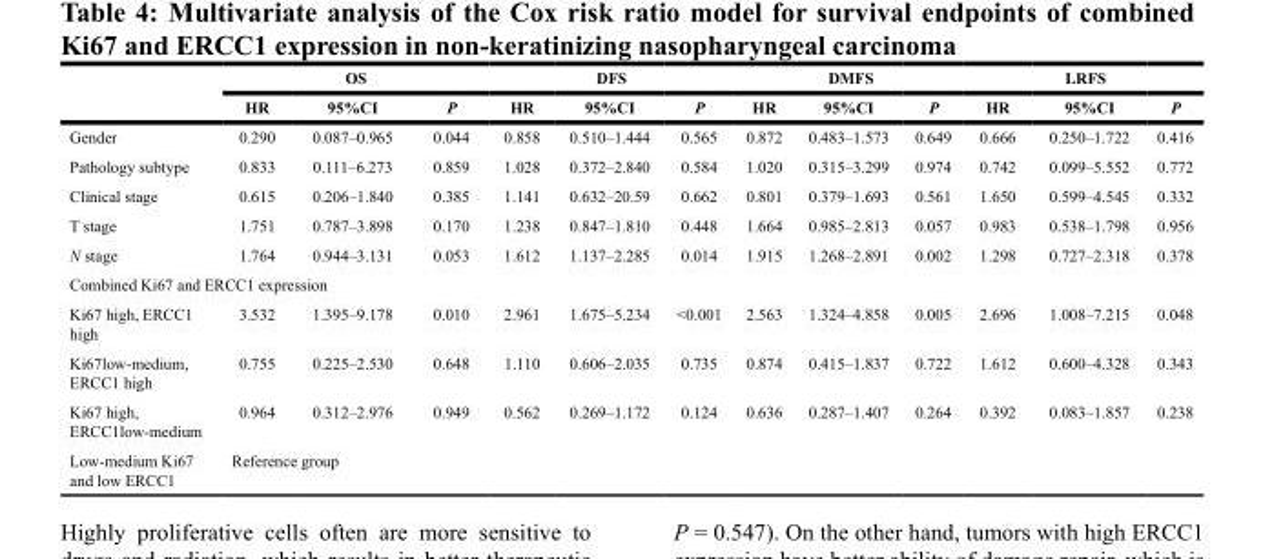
<table><thead><tr><td rowspan="2"></td><td colspan="3">OS</td><td colspan="3">DFS</td><td colspan="3">DMFS</td><td colspan="3">LRFS</td></tr><tr><td>HR</td><td>95%CI</td><td>P</td><td>HR</td><td>95%CI</td><td>P</td><td>HR</td><td>95%CI</td><td>P</td><td>HR</td><td>95%CI</td><td>P</td></tr></thead><tbody><tr><td>Gender</td><td>0.290</td><td>0.087–0.965</td><td>0.044</td><td>0.858</td><td>0.510–1.444</td><td>0.565</td><td>0.872</td><td>0.483–1.573</td><td>0.649</td><td>0.666</td><td>0.250–1.722</td><td>0.416</td></tr><tr><td>Pathology subtype</td><td>0.833</td><td>0.111–6.273</td><td>0.859</td><td>1.028</td><td>0.372–2.840</td><td>0.584</td><td>1.020</td><td>0.315–3.299</td><td>0.974</td><td>0.742</td><td>0.099–5.552</td><td>0.772</td></tr><tr><td>Clinical stage</td><td>0.615</td><td>0.206–1.840</td><td>0.385</td><td>1.141</td><td>0.632–20.59</td><td>0.662</td><td>0.801</td><td>0.379–1.693</td><td>0.561</td><td>1.650</td><td>0.599–4.545</td><td>0.332</td></tr><tr><td>T stage</td><td>1.751</td><td>0.787–3.898</td><td>0.170</td><td>1.238</td><td>0.847–1.810</td><td>0.448</td><td>1.664</td><td>0.985–2.813</td><td>0.057</td><td>0.983</td><td>0.538–1.798</td><td>0.956</td></tr><tr><td>N stage</td><td>1.764</td><td>0.944–3.131</td><td>0.053</td><td>1.612</td><td>1.137–2.285</td><td>0.014</td><td>1.915</td><td>1.268–2.891</td><td>0.002</td><td>1.298</td><td>0.727–2.318</td><td>0.378</td></tr><tr><td colspan="13">Combined Ki67 and ERCC1 expression</td></tr><tr><td>Ki67 high, ERCC1 high</td><td>3.532</td><td>1.395–9.178</td><td>0.010</td><td>2.961</td><td>1.675–5.234</td><td>&lt;0.001</td><td>2.563</td><td>1.324–4.858</td><td>0.005</td><td>2.696</td><td>1.008–7.215</td><td>0.048</td></tr><tr><td>Ki67low-medium, ERCC1 high</td><td>0.755</td><td>0.225–2.530</td><td>0.648</td><td>1.110</td><td>0.606–2.035</td><td>0.735</td><td>0.874</td><td>0.415–1.837</td><td>0.722</td><td>1.612</td><td>0.600–4.328</td><td>0.343</td></tr><tr><td>Ki67 high, ERCC1low-medium</td><td>0.964</td><td>0.312–2.976</td><td>0.949</td><td>0.562</td><td>0.269–1.172</td><td>0.124</td><td>0.636</td><td>0.287–1.407</td><td>0.264</td><td>0.392</td><td>0.083–1.857</td><td>0.238</td></tr><tr><td>Low-medium Ki67 and low ERCC1</td><td colspan="12">Reference group</td></tr></tbody></table>